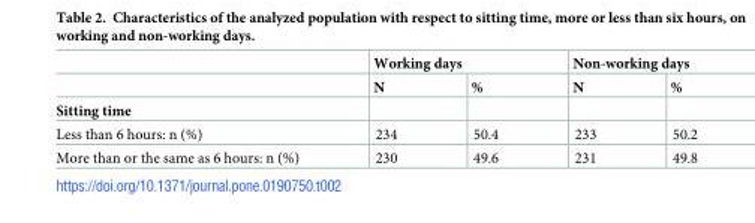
<table><thead><tr><td rowspan="2"></td><td colspan="2">Working days</td><td colspan="2">Non-working days</td></tr><tr><td>N</td><td>%</td><td>N</td><td>%</td></tr></thead><tbody><tr><td colspan="5">Sitting time</td></tr><tr><td>Less than 6 hours: n (%)</td><td>234</td><td>50.4</td><td>233</td><td>50.2</td></tr><tr><td>More than or the same as 6 hours: n (%)</td><td>230</td><td>49.6</td><td>231</td><td>49.8</td></tr></tbody></table>